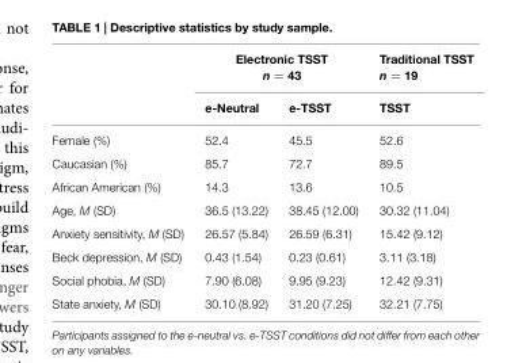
<table><thead><tr><td rowspan="2"></td><td colspan="2">Electronic TSST n = 43</td><td rowspan="2">Traditional TSST n = 19 TSST</td></tr><tr><td>e-Neutral</td><td>e-TSST</td></tr></thead><tbody><tr><td>Female (%)</td><td>52.4</td><td>45.5</td><td>52.6</td></tr><tr><td>Caucasian (%)</td><td>85.7</td><td>72.7</td><td>89.5</td></tr><tr><td>African American (%)</td><td>14.3</td><td>13.6</td><td>10.5</td></tr><tr><td>Age, M (SD)</td><td>36.5 (13.22)</td><td>38.45 (12.00)</td><td>30.32 (11.04)</td></tr><tr><td>Anxiety sensitivity, M (SD)</td><td>26.57 (5.84)</td><td>26.59 (6.31)</td><td>15.42 (9.12)</td></tr><tr><td>Beck depression, M (SD)</td><td>0.43 (1.54)</td><td>0.23 (0.61)</td><td>3.11 (3.18)</td></tr><tr><td>Social phobia, M (SD)</td><td>7.90 (6.08)</td><td>9.95 (9.23)</td><td>12.42 (9.31)</td></tr><tr><td>State anxiety, M (SD)</td><td>30.10 (8.92)</td><td>31.20 (7.25)</td><td>32.21 (7.75)</td></tr></tbody></table>